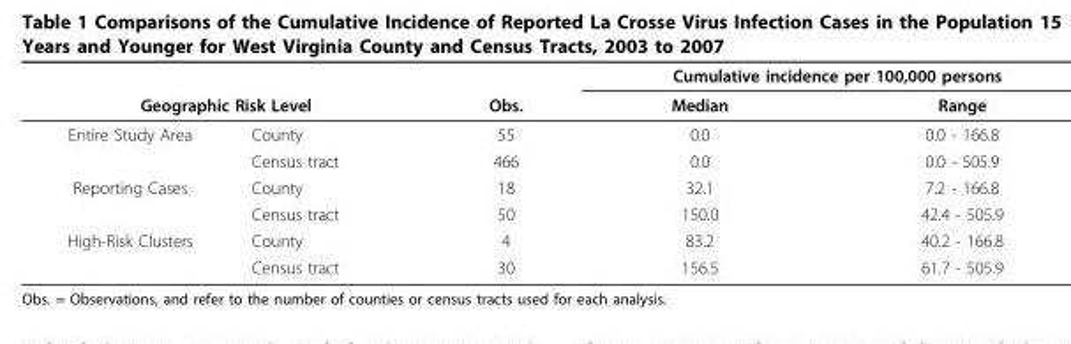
<table><thead><tr><td></td><td></td><td rowspan="2">Obs.</td><td colspan="2">Cumulative incidence per 100,000 persons</td></tr><tr><td colspan="2">Geographic Risk Level</td><td>Median</td><td>Range</td></tr></thead><tbody><tr><td rowspan="2">Entire Study Area</td><td>County</td><td>55</td><td>0.0</td><td>0.0 - 166.8</td></tr><tr><td>Census tract</td><td>466</td><td>0.0</td><td>0.0 - 505.9</td></tr><tr><td rowspan="2">Reporting Cases</td><td>County</td><td>18</td><td>32.1</td><td>7.2 - 166.8</td></tr><tr><td>Census tract</td><td>50</td><td>150.0</td><td>42.4 - 505.9</td></tr><tr><td rowspan="2">High-Risk Clusters</td><td>County</td><td>4</td><td>83.2</td><td>40.2 - 166.8</td></tr><tr><td>Census tract</td><td>30</td><td>156.5</td><td>61.7 - 505.9</td></tr></tbody></table>